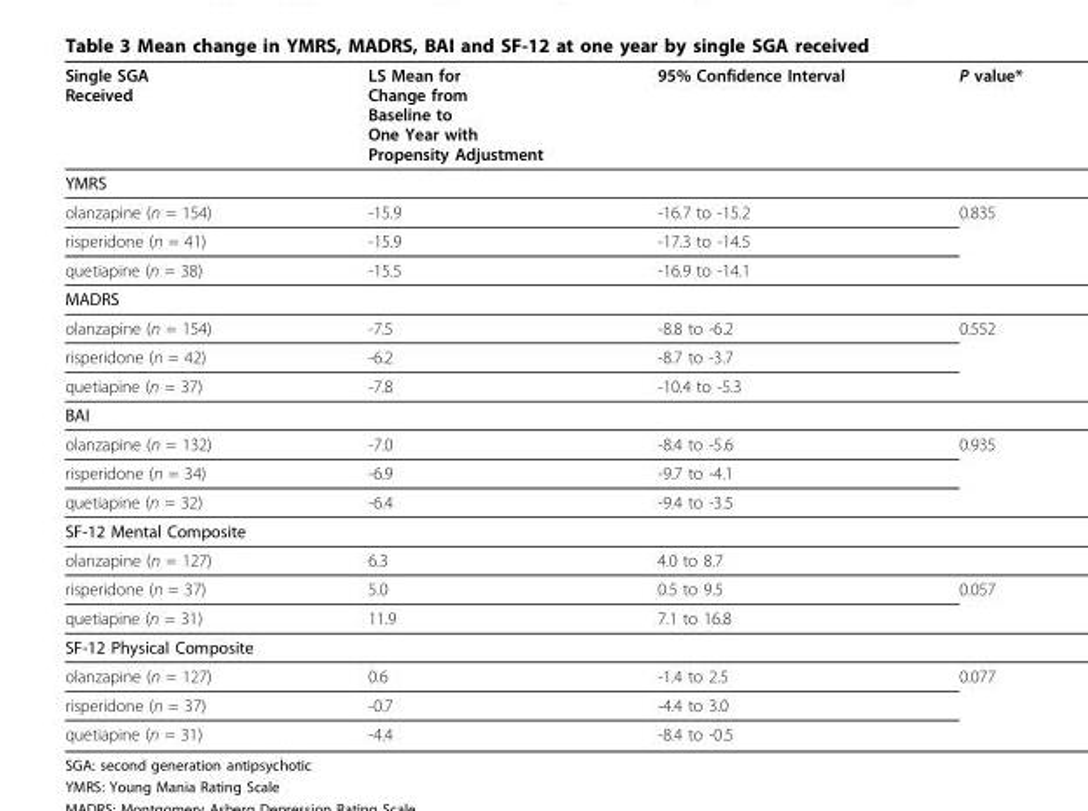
<table><thead><tr><td>Single SGA Received</td><td>LS Mean for Change from Baseline to One Year with Propensity Adjustment</td><td>95% Confidence Interval</td><td>P value*</td></tr></thead><tbody><tr><td colspan="4">YMRS</td></tr><tr><td>olanzapine (n = 154)</td><td>-15.9</td><td>-16.7 to -15.2</td><td>0.835</td></tr><tr><td>risperidone (n = 41)</td><td>-15.9</td><td>-17.3 to -14.5</td><td></td></tr><tr><td>quetiapine (n = 38)</td><td>-15.5</td><td>-16.9 to -14.1</td><td></td></tr><tr><td colspan="4">MADRS</td></tr><tr><td>olanzapine (n = 154)</td><td>-7.5</td><td>-8.8 to -6.2</td><td>0.552</td></tr><tr><td>risperidone (n = 42)</td><td>-6.2</td><td>-8.7 to -3.7</td><td></td></tr><tr><td>quetiapine (n = 37)</td><td>-7.8</td><td>-10.4 to -5.3</td><td></td></tr><tr><td colspan="4">BAI</td></tr><tr><td>olanzapine (n = 132)</td><td>-7.0</td><td>-8.4 to -5.6</td><td>0.935</td></tr><tr><td>risperidone (n = 34)</td><td>-6.9</td><td>-9.7 to -4.1</td><td></td></tr><tr><td>quetiapine (n = 32)</td><td>-6.4</td><td>-9.4 to -3.5</td><td></td></tr><tr><td colspan="4">SF-12 Mental Composite</td></tr><tr><td>olanzapine (n = 127)</td><td>6.3</td><td>4.0 to 8.7</td><td></td></tr><tr><td>risperidone (n = 37)</td><td>5.0</td><td>0.5 to 9.5</td><td>0.057</td></tr><tr><td>quetiapine (n = 31)</td><td>11.9</td><td>7.1 to 16.8</td><td></td></tr><tr><td colspan="4">SF-12 Physical Composite</td></tr><tr><td>olanzapine (n = 127)</td><td>0.6</td><td>-1.4 to 2.5</td><td>0.077</td></tr><tr><td>risperidone (n = 37)</td><td>-0.7</td><td>-4.4 to 3.0</td><td></td></tr><tr><td>quetiapine (n = 31)</td><td>-4.4</td><td>-8.4 to -0.5</td><td></td></tr></tbody></table>